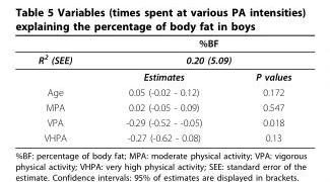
<table><thead><tr><td rowspan="3">R2 (SEE)</td><td rowspan="2" colspan="2">%BF 0.20 (5.09)</td></tr><tr></tr><tr><td>Estimates</td><td>P values</td></tr></thead><tbody><tr><td>Age</td><td>0.05 (-0.02 - 0.12)</td><td>0.172</td></tr><tr><td>MPA</td><td>0.02 (-0.05 - 0.09)</td><td>0.547</td></tr><tr><td>VPA</td><td>-0.29 (-0.52 - -0.05)</td><td>0.018</td></tr><tr><td>VHPA</td><td>-0.27 (-0.62 - 0.08)</td><td>0.13</td></tr></tbody></table>